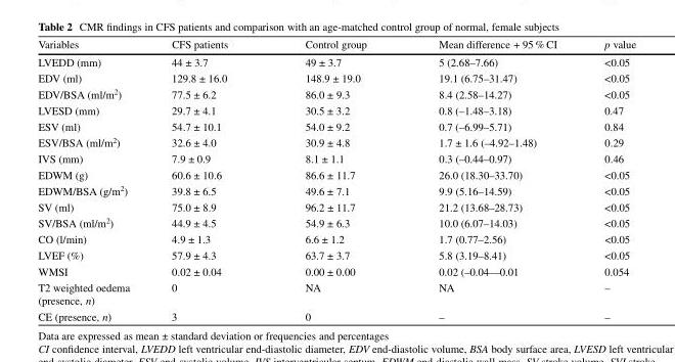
<table><thead><tr><td>Variables</td><td>CFS patients</td><td>Control group</td><td>Mean difference + 95 % CI</td><td>p value</td></tr></thead><tbody><tr><td>LVEDD (mm)</td><td>44 ± 3.7</td><td>49 ± 3.7</td><td>5 (2.68–7.66)</td><td>&lt;0.05</td></tr><tr><td>EDV (ml)</td><td>129.8 ± 16.0</td><td>148.9 ± 19.0</td><td>19.1 (6.75–31.47)</td><td>&lt;0.05</td></tr><tr><td>EDV/BSA (ml/m<sup>2</sup>)</td><td>77.5 ± 6.2</td><td>86.0 ± 9.3</td><td>8.4 (2.58–14.27)</td><td>&lt;0.05</td></tr><tr><td>LVESD (mm)</td><td>29.7 ± 4.1</td><td>30.5 ± 3.2</td><td>0.8 (–1.48–3.18)</td><td>0.47</td></tr><tr><td>ESV (ml)</td><td>54.7 ± 10.1</td><td>54.0 ± 9.2</td><td>0.7 (–6.99–5.71)</td><td>0.84</td></tr><tr><td>ESV/BSA (ml/m<sup>2</sup>)</td><td>32.6 ± 4.0</td><td>30.9 ± 4.8</td><td>1.7 ± 1.6 (–4.92–1.48)</td><td>0.29</td></tr><tr><td>IVS (mm)</td><td>7.9 ± 0.9</td><td>8.1 ± 1.1</td><td>0.3 (–0.44–0.97)</td><td>0.46</td></tr><tr><td>EDWM (g)</td><td>60.6 ± 10.6</td><td>86.6 ± 11.7</td><td>26.0 (18.30–33.70)</td><td>&lt;0.05</td></tr><tr><td>EDWM/BSA (g/m<sup>2</sup>)</td><td>39.8 ± 6.5</td><td>49.6 ± 7.1</td><td>9.9 (5.16–14.59)</td><td>&lt;0.05</td></tr><tr><td>SV (ml)</td><td>75.0 ± 8.9</td><td>96.2 ± 11.7</td><td>21.2 (13.68–28.73)</td><td>&lt;0.05</td></tr><tr><td>SV/BSA (ml/m<sup>2</sup>)</td><td>44.9 ± 4.5</td><td>54.9 ± 6.3</td><td>10.0 (6.07–14.03)</td><td>&lt;0.05</td></tr><tr><td>CO (l/min)</td><td>4.9 ± 1.3</td><td>6.6 ± 1.2</td><td>1.7 (0.77–2.56)</td><td>&lt;0.05</td></tr><tr><td>LVEF (%)</td><td>57.9 ± 4.3</td><td>63.7 ± 3.7</td><td>5.8 (3.19–8.41)</td><td>&lt;0.05</td></tr><tr><td>WMSI</td><td>0.02 ± 0.04</td><td>0.00 ± 0.00</td><td>0.02 (–0.04––0.01</td><td>0.054</td></tr><tr><td>T2 weighted oedema (presence, n)</td><td>0</td><td>NA</td><td>NA</td><td>–</td></tr><tr><td>CE (presence, n)</td><td>3</td><td>0</td><td>–</td><td>–</td></tr></tbody></table>